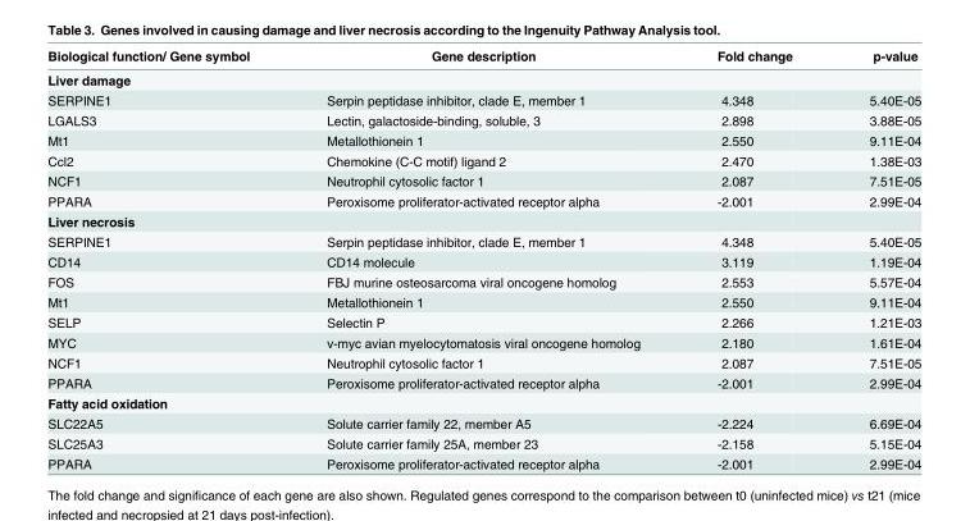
<table><thead><tr><td>Biological function/ Gene symbol</td><td>Gene description</td><td>Fold change</td><td>p-value</td></tr></thead><tbody><tr><td colspan="4">Liver damage</td></tr><tr><td>SERPINE1</td><td>Serpin peptidase inhibitor, clade E, member 1</td><td>4.348</td><td>5.40E-05</td></tr><tr><td>LGALS3</td><td>Lectin, galactoside-binding, soluble, 3</td><td>2.898</td><td>3.88E-05</td></tr><tr><td>Mt1</td><td>Metallothionein 1</td><td>2.550</td><td>9.11E-04</td></tr><tr><td>Ccl2</td><td>Chemokine (C-C motif) ligand 2</td><td>2.470</td><td>1.38E-03</td></tr><tr><td>NCF1</td><td>Neutrophil cytosolic factor 1</td><td>2.087</td><td>7.51E-05</td></tr><tr><td>PPARA</td><td>Peroxisome proliferator-activated receptor alpha</td><td>-2.001</td><td>2.99E-04</td></tr><tr><td colspan="4">Liver necrosis</td></tr><tr><td>SERPINE1</td><td>Serpin peptidase inhibitor, clade E, member 1</td><td>4.348</td><td>5.40E-05</td></tr><tr><td>CD14</td><td>CD14 molecule</td><td>3.119</td><td>1.19E-04</td></tr><tr><td>FOS</td><td>FBJ murine osteosarcoma viral oncogene homolog</td><td>2.553</td><td>5.57E-04</td></tr><tr><td>Mt1</td><td>Metallothionein 1</td><td>2.550</td><td>9.11E-04</td></tr><tr><td>SELP</td><td>Selectin P</td><td>2.266</td><td>1.21E-03</td></tr><tr><td>MYC</td><td>v-myc avian myelocytomatosis viral oncogene homolog</td><td>2.180</td><td>1.61E-04</td></tr><tr><td>NCF1</td><td>Neutrophil cytosolic factor 1</td><td>2.087</td><td>7.51E-05</td></tr><tr><td>PPARA</td><td>Peroxisome proliferator-activated receptor alpha</td><td>-2.001</td><td>2.99E-04</td></tr><tr><td colspan="4">Fatty acid oxidation</td></tr><tr><td>SLC22A5</td><td>Solute carrier family 22, member A5</td><td>-2.224</td><td>6.69E-04</td></tr><tr><td>SLC25A3</td><td>Solute carrier family 25A, member 23</td><td>-2.158</td><td>5.15E-04</td></tr><tr><td>PPARA</td><td>Peroxisome proliferator-activated receptor alpha</td><td>-2.001</td><td>2.99E-04</td></tr></tbody></table>